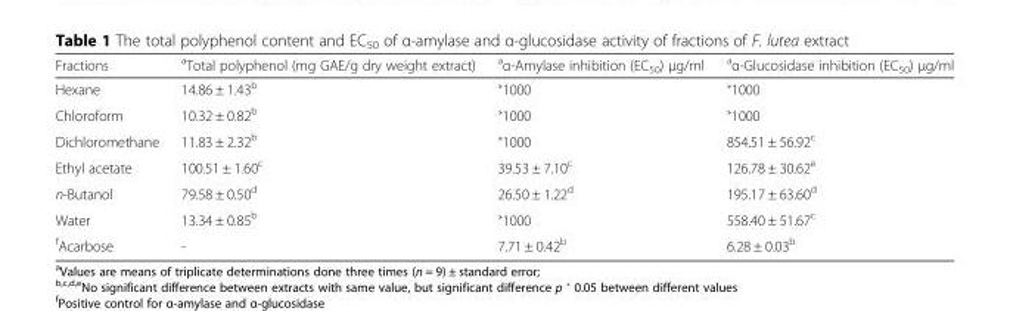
<table><thead><tr><td>Fractions</td><td><sup>a</sup>Total polyphenol (mg GAE/g dry weight extract)</td><td><sup>a</sup>α-Amylase inhibition (EC<sub>50</sub>) μg/ml</td><td><sup>a</sup>α-Glucosidase inhibition (EC<sub>50</sub>) μg/ml</td></tr></thead><tbody><tr><td>Hexane</td><td>14.86 ± 1.43<sup>b</sup></td><td>˃1000</td><td>˃1000</td></tr><tr><td>Chloroform</td><td>10.32 ± 0.82<sup>b</sup></td><td>˃1000</td><td>˃1000</td></tr><tr><td>Dichloromethane</td><td>11.83 ± 2.32<sup>b</sup></td><td>˃1000</td><td>854.51 ± 56.92<sup>c</sup></td></tr><tr><td>Ethyl acetate</td><td>100.51 ± 1.60<sup>c</sup></td><td>39.53 ± 7.10<sup>c</sup></td><td>126.78 ± 30.62<sup>e</sup></td></tr><tr><td>n-Butanol</td><td>79.58 ± 0.50<sup>d</sup></td><td>26.50 ± 1.22<sup>d</sup></td><td>195.17 ± 63.60<sup>d</sup></td></tr><tr><td>Water</td><td>13.34 ± 0.85<sup>b</sup></td><td>˃1000</td><td>558.40 ± 51.67<sup>c</sup></td></tr><tr><td><sup>f</sup>Acarbose</td><td>-</td><td>7.71 ± 0.42<sup>b</sup></td><td>6.28 ± 0.03<sup>b</sup></td></tr></tbody></table>